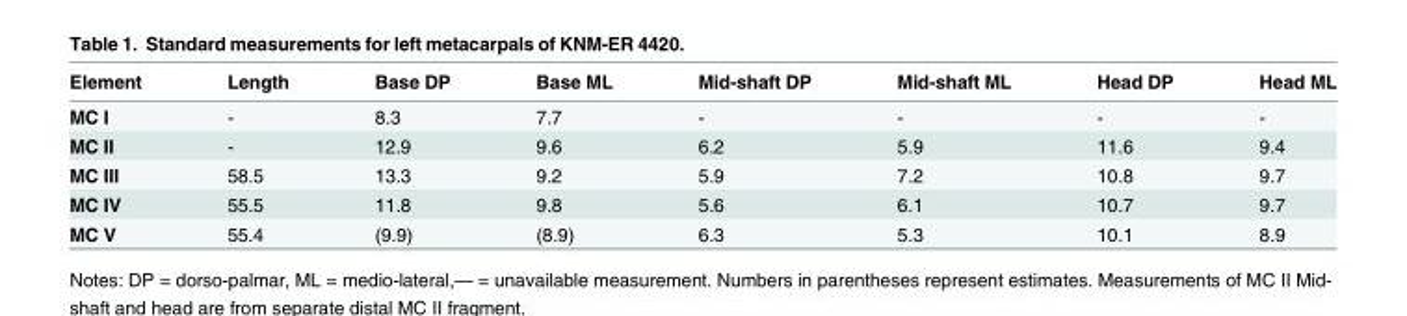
<table><thead><tr><td>Element</td><td>Length</td><td>Base DP</td><td>Base ML</td><td>Mid-shaft DP</td><td>Mid-shaft ML</td><td>Head DP</td><td>Head ML</td></tr></thead><tbody><tr><td>MC I</td><td>-</td><td>8.3</td><td>7.7</td><td>-</td><td>-</td><td>-</td><td>-</td></tr><tr><td>MC II</td><td>-</td><td>12.9</td><td>9.6</td><td>6.2</td><td>5.9</td><td>11.6</td><td>9.4</td></tr><tr><td>MC III</td><td>58.5</td><td>13.3</td><td>9.2</td><td>5.9</td><td>7.2</td><td>10.8</td><td>9.7</td></tr><tr><td>MC IV</td><td>55.5</td><td>11.8</td><td>9.8</td><td>5.6</td><td>6.1</td><td>10.7</td><td>9.7</td></tr><tr><td>MC V</td><td>55.4</td><td>(9.9)</td><td>(8.9)</td><td>6.3</td><td>5.3</td><td>10.1</td><td>8.9</td></tr></tbody></table>